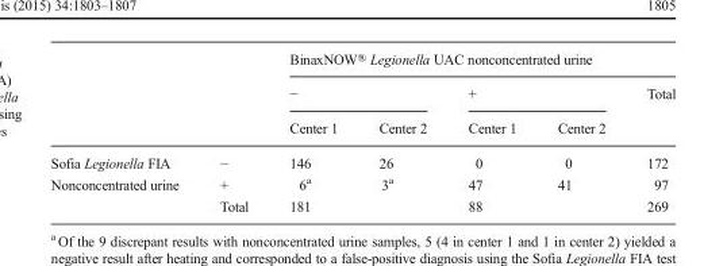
<table><thead><tr><td rowspan="3"></td><td rowspan="3"></td><td colspan="5">BinaxNOW® Legionella UAC nonconcentrated urine</td></tr><tr><td colspan="2">−</td><td colspan="2">+</td><td rowspan="2">Total</td></tr><tr><td>Center 1</td><td>Center 2</td><td>Center 1</td><td>Center 2</td></tr></thead><tbody><tr><td rowspan="3">Sofia Legionella FIA Nonconcentrated urine</td><td rowspan="2">− +</td><td>146</td><td>26</td><td>0</td><td>0</td><td>172</td></tr><tr><td>6<sup>a</sup></td><td>3<sup>a</sup></td><td>47</td><td>41</td><td>97</td></tr><tr><td>Total</td><td colspan="2">181</td><td colspan="2">88</td><td>269</td></tr></tbody></table>